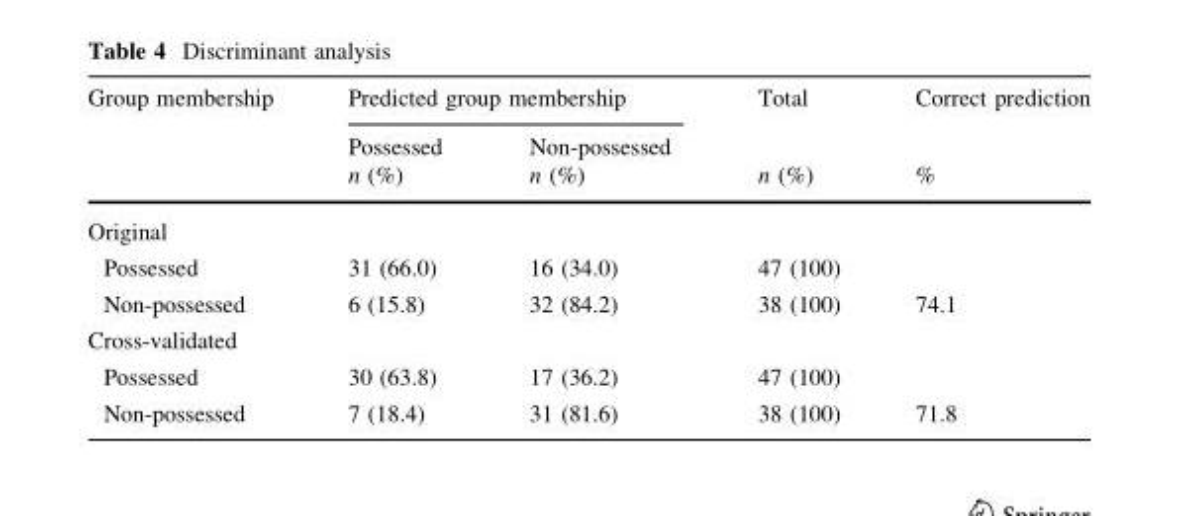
<table><thead><tr><td rowspan="3">Group membership</td><td colspan="2">Predicted group membership</td><td rowspan="3">Total n (%)</td><td rowspan="3">Correct prediction %</td></tr><tr><td rowspan="2">Possessed n (%)</td><td rowspan="2">Non-possessed n (%)</td></tr><tr></tr></thead><tbody><tr><td colspan="5">Original</td></tr><tr><td>Possessed</td><td>31 (66.0)</td><td>16 (34.0)</td><td>47 (100)</td><td></td></tr><tr><td>Non-possessed</td><td>6 (15.8)</td><td>32 (84.2)</td><td>38 (100)</td><td>74.1</td></tr><tr><td colspan="5">Cross-validated</td></tr><tr><td>Possessed</td><td>30 (63.8)</td><td>17 (36.2)</td><td>47 (100)</td><td></td></tr><tr><td>Non-possessed</td><td>7 (18.4)</td><td>31 (81.6)</td><td>38 (100)</td><td>71.8</td></tr></tbody></table>